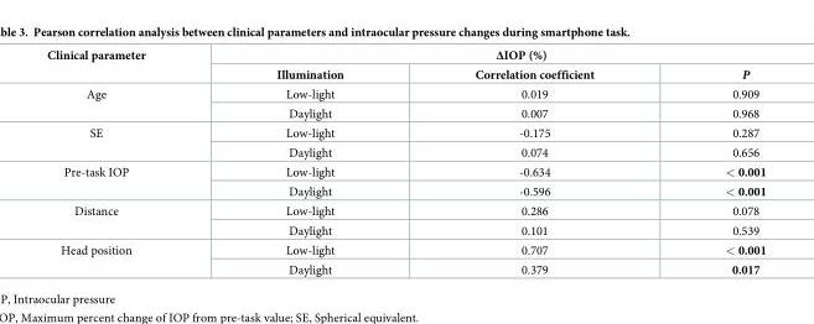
<table><thead><tr><td rowspan="2">Clinical parameter</td><td colspan="3">ΔIOP (%)</td></tr><tr><td>Illumination</td><td>Correlation coefficient</td><td>P</td></tr></thead><tbody><tr><td rowspan="2">Age</td><td>Low-light</td><td>0.019</td><td>0.909</td></tr><tr><td>Daylight</td><td>0.007</td><td>0.968</td></tr><tr><td rowspan="2">SE</td><td>Low-light</td><td>-0.175</td><td>0.287</td></tr><tr><td>Daylight</td><td>0.074</td><td>0.656</td></tr><tr><td rowspan="2">Pre-task IOP</td><td>Low-light</td><td>-0.634</td><td>&lt; 0.001</td></tr><tr><td>Daylight</td><td>-0.596</td><td>&lt; 0.001</td></tr><tr><td rowspan="2">Distance</td><td>Low-light</td><td>0.286</td><td>0.078</td></tr><tr><td>Daylight</td><td>0.101</td><td>0.539</td></tr><tr><td rowspan="2">Head position</td><td>Low-light</td><td>0.707</td><td>&lt; 0.001</td></tr><tr><td>Daylight</td><td>0.379</td><td>0.017</td></tr></tbody></table>